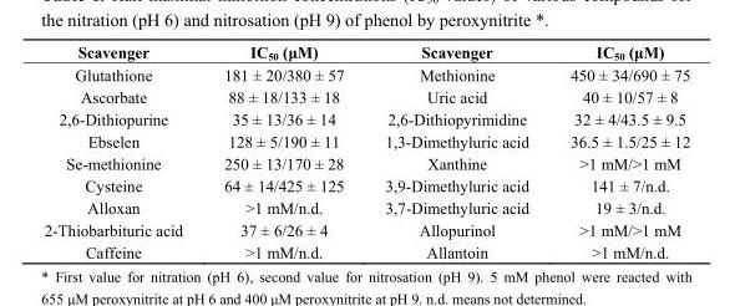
<table><thead><tr><td>Scavenger</td><td>IC<sub>50</sub> (μM)</td><td>Scavenger</td><td>IC<sub>50</sub> (μM)</td></tr></thead><tbody><tr><td>Glutathione</td><td>181 ± 20/380 ± 57</td><td>Methionine</td><td>450 ± 34/690 ± 75</td></tr><tr><td>Ascorbate</td><td>88 ± 18/133 ± 18</td><td>Uric acid</td><td>40 ± 10/57 ± 8</td></tr><tr><td>2,6-Dithiopurine</td><td>35 ± 13/36 ± 14</td><td>2,6-Dithiopyrimidine</td><td>32 ± 4/43.5 ± 9.5</td></tr><tr><td>Ebselen</td><td>128 ± 5/190 ± 11</td><td>1,3-Dimethyluric acid</td><td>36.5 ± 1.5/25 ± 12</td></tr><tr><td>Se-methionine</td><td>250 ± 13/170 ± 28</td><td>Xanthine</td><td>&gt;1 mM/&gt;1 mM</td></tr><tr><td>Cysteine</td><td>64 ± 14/425 ± 125</td><td>3,9-Dimethyluric acid</td><td>141 ± 7/n.d.</td></tr><tr><td>Alloxan</td><td>&gt;1 mM/n.d.</td><td>3,7-Dimethyluric acid</td><td>19 ± 3/n.d.</td></tr><tr><td>2-Thiobarbituric acid</td><td>37 ± 6/26 ± 4</td><td>Allopurinol</td><td>&gt;1 mM/&gt;1 mM</td></tr><tr><td>Caffeine</td><td>&gt;1 mM/n.d.</td><td>Allantoin</td><td>&gt;1 mM/n.d.</td></tr></tbody></table>